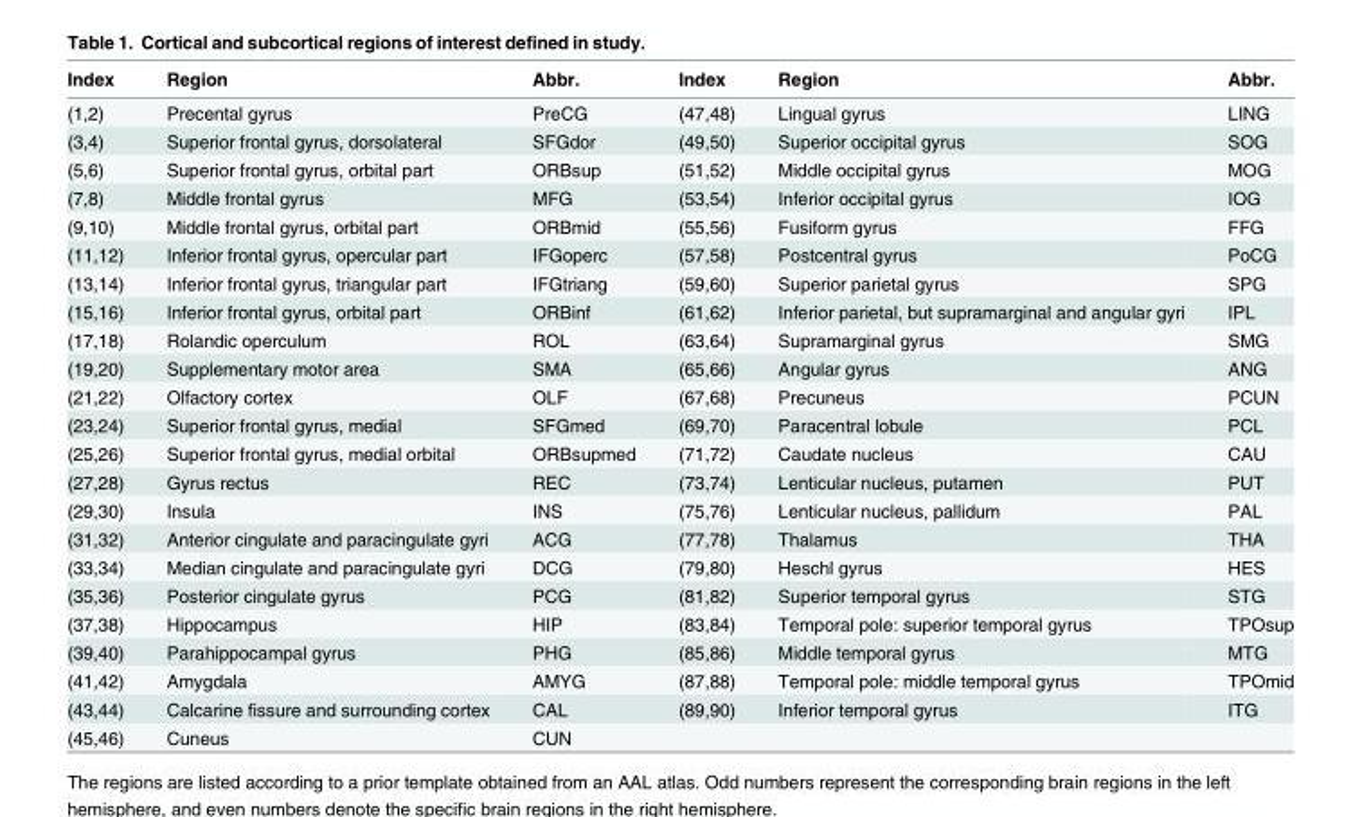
<table><thead><tr><td>Index</td><td>Region</td><td>Abbr.</td><td>Index</td><td>Region</td><td>Abbr.</td></tr></thead><tbody><tr><td>(1,2)</td><td>Precental gyrus</td><td>PreCG</td><td>(47,48)</td><td>Lingual gyrus</td><td>LING</td></tr><tr><td>(3,4)</td><td>Superior frontal gyrus, dorsolateral</td><td>SFGdor</td><td>(49,50)</td><td>Superior occipital gyrus</td><td>SOG</td></tr><tr><td>(5,6)</td><td>Superior frontal gyrus, orbital part</td><td>ORBsup</td><td>(51,52)</td><td>Middle occipital gyrus</td><td>MOG</td></tr><tr><td>(7,8)</td><td>Middle frontal gyrus</td><td>MFG</td><td>(53,54)</td><td>Inferior occipital gyrus</td><td>IOG</td></tr><tr><td>(9,10)</td><td>Middle frontal gyrus, orbital part</td><td>ORBmid</td><td>(55,56)</td><td>Fusiform gyrus</td><td>FFG</td></tr><tr><td>(11,12)</td><td>Inferior frontal gyrus, opercular part</td><td>IFGoperc</td><td>(57,58)</td><td>Postcentral gyrus</td><td>PoCG</td></tr><tr><td>(13,14)</td><td>Inferior frontal gyrus, triangular part</td><td>IFGtriang</td><td>(59,60)</td><td>Superior parietal gyrus</td><td>SPG</td></tr><tr><td>(15,16)</td><td>Inferior frontal gyrus, orbital part</td><td>ORBinf</td><td>(61,62)</td><td>Inferior parietal, but supramarginal and angular gyri</td><td>IPL</td></tr><tr><td>(17,18)</td><td>Rolandic operculum</td><td>ROL</td><td>(63,64)</td><td>Supramarginal gyrus</td><td>SMG</td></tr><tr><td>(19,20)</td><td>Supplementary motor area</td><td>SMA</td><td>(65,66)</td><td>Angular gyrus</td><td>ANG</td></tr><tr><td>(21,22)</td><td>Olfactory cortex</td><td>OLF</td><td>(67,68)</td><td>Precuneus</td><td>PCUN</td></tr><tr><td>(23,24)</td><td>Superior frontal gyrus, medial</td><td>SFGmed</td><td>(69,70)</td><td>Paracentral lobule</td><td>PCL</td></tr><tr><td>(25,26)</td><td>Superior frontal gyrus, medial orbital</td><td>ORBsupmed</td><td>(71,72)</td><td>Caudate nucleus</td><td>CAU</td></tr><tr><td>(27,28)</td><td>Gyrus rectus</td><td>REC</td><td>(73,74)</td><td>Lenticular nucleus, putamen</td><td>PUT</td></tr><tr><td>(29,30)</td><td>Insula</td><td>INS</td><td>(75,76)</td><td>Lenticular nucleus, pallidum</td><td>PAL</td></tr><tr><td>(31,32)</td><td>Anterior cingulate and paracingulate gyri</td><td>ACG</td><td>(77,78)</td><td>Thalamus</td><td>THA</td></tr><tr><td>(33,34)</td><td>Median cingulate and paracingulate gyri</td><td>DCG</td><td>(79,80)</td><td>Heschl gyrus</td><td>HES</td></tr><tr><td>(35,36)</td><td>Posterior cingulate gyrus</td><td>PCG</td><td>(81,82)</td><td>Superior temporal gyrus</td><td>STG</td></tr><tr><td>(37,38)</td><td>Hippocampus</td><td>HIP</td><td>(83,84)</td><td>Temporal pole: superior temporal gyrus</td><td>TPOsup</td></tr><tr><td>(39,40)</td><td>Parahippocampal gyrus</td><td>PHG</td><td>(85,86)</td><td>Middle temporal gyrus</td><td>MTG</td></tr><tr><td>(41,42)</td><td>Amygdala</td><td>AMYG</td><td>(87,88)</td><td>Temporal pole: middle temporal gyrus</td><td>TPOmid</td></tr><tr><td>(43,44)</td><td>Calcarine fissure and surrounding cortex</td><td>CAL</td><td>(89,90)</td><td>Inferior temporal gyrus</td><td>ITG</td></tr><tr><td>(45,46)</td><td>Cuneus</td><td>CUN</td><td></td><td></td><td></td></tr></tbody></table>